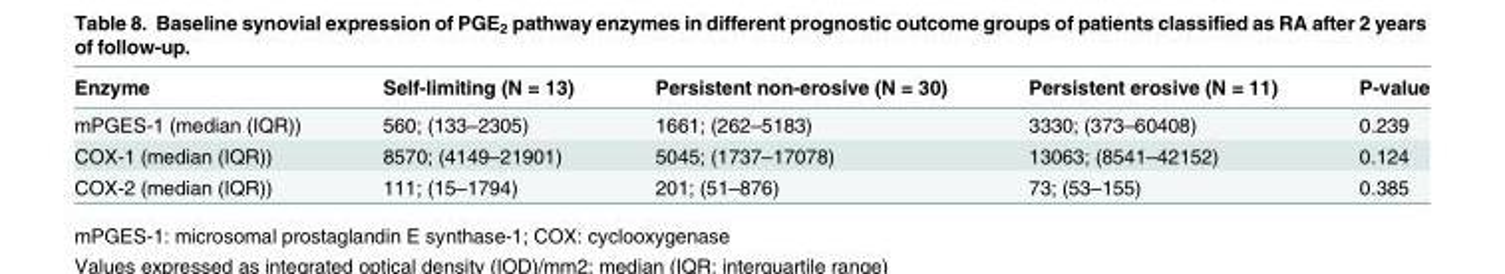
<table><thead><tr><td>Enzyme</td><td>Self-limiting (N = 13)</td><td>Persistent non-erosive (N = 30)</td><td>Persistent erosive (N = 11)</td><td>P-value</td></tr></thead><tbody><tr><td>mPGES-1 (median (IQR))</td><td>560; (133–2305)</td><td>1661; (262–5183)</td><td>3330; (373–60408)</td><td>0.239</td></tr><tr><td>COX-1 (median (IQR))</td><td>8570; (4149–21901)</td><td>5045; (1737–17078)</td><td>13063; (8541–42152)</td><td>0.124</td></tr><tr><td>COX-2 (median (IQR))</td><td>111; (15–1794)</td><td>201; (51–876)</td><td>73; (53–155)</td><td>0.385</td></tr></tbody></table>